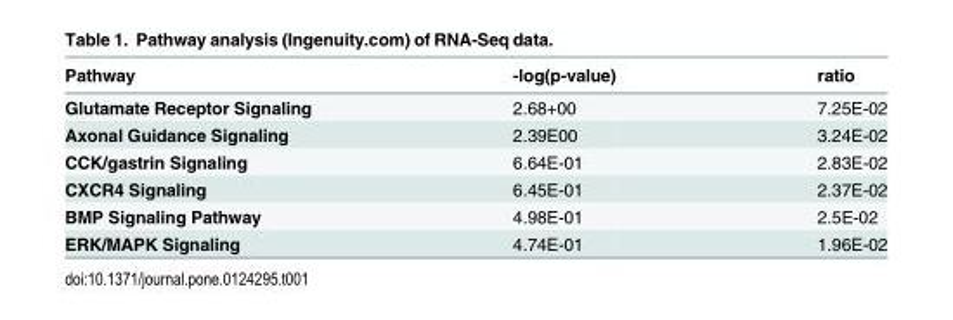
<table><thead><tr><td>Pathway</td><td>-log(p-value)</td><td>ratio</td></tr></thead><tbody><tr><td>Glutamate Receptor Signaling</td><td>2.68+00</td><td>7.25E-02</td></tr><tr><td>Axonal Guidance Signaling</td><td>2.39E00</td><td>3.24E-02</td></tr><tr><td>CCK/gastrin Signaling</td><td>6.64E-01</td><td>2.83E-02</td></tr><tr><td>CXCR4 Signaling</td><td>6.45E-01</td><td>2.37E-02</td></tr><tr><td>BMP Signaling Pathway</td><td>4.98E-01</td><td>2.5E-02</td></tr><tr><td>ERK/MAPK Signaling</td><td>4.74E-01</td><td>1.96E-02</td></tr></tbody></table>